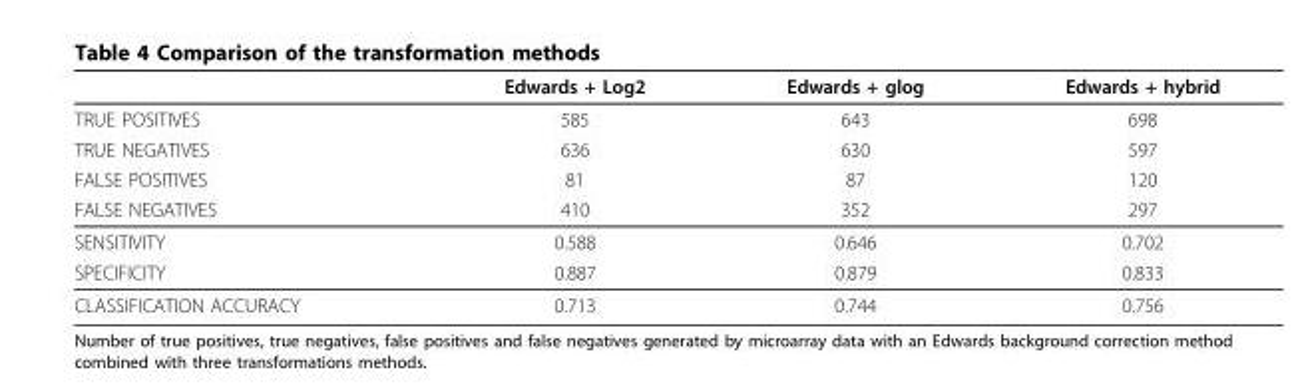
<table><thead><tr><td></td><td>Edwards + Log2</td><td>Edwards + glog</td><td>Edwards + hybrid</td></tr></thead><tbody><tr><td>TRUE POSITIVES</td><td>585</td><td>643</td><td>698</td></tr><tr><td>TRUE NEGATIVES</td><td>636</td><td>630</td><td>597</td></tr><tr><td>FALSE POSITIVES</td><td>81</td><td>87</td><td>120</td></tr><tr><td>FALSE NEGATIVES</td><td>410</td><td>352</td><td>297</td></tr><tr><td>SENSITIVITY</td><td>0.588</td><td>0.646</td><td>0.702</td></tr><tr><td>SPECIFICITY</td><td>0.887</td><td>0.879</td><td>0.833</td></tr><tr><td>CLASSIFICATION ACCURACY</td><td>0.713</td><td>0.744</td><td>0.756</td></tr></tbody></table>